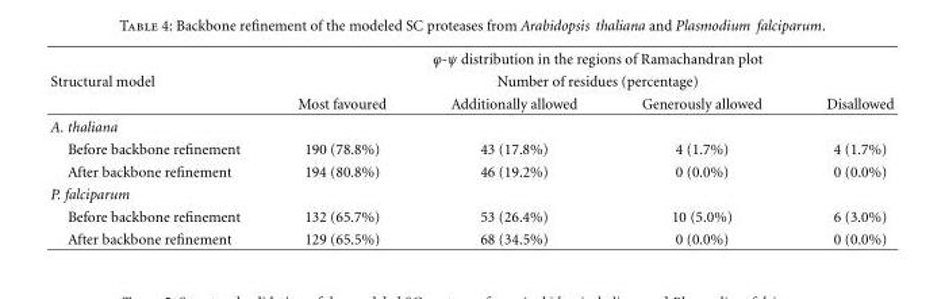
<table><thead><tr><td rowspan="3">Structural model</td><td rowspan="2" colspan="4">ϕ-ψ distribution in the regions of Ramachandran plot Number of residues (percentage)</td></tr><tr></tr><tr><td>Most favoured</td><td>Additionally allowed</td><td>Generously allowed</td><td>Disallowed</td></tr></thead><tbody><tr><td colspan="5">A. thaliana</td></tr><tr><td>Before backbone refinement</td><td>190 (78.8%)</td><td>43 (17.8%)</td><td>4 (1.7%)</td><td>4 (1.7%)</td></tr><tr><td>After backbone refinement</td><td>194 (80.8%)</td><td>46 (19.2%)</td><td>0 (0.0%)</td><td>0 (0.0%)</td></tr><tr><td colspan="5">P. falciparum</td></tr><tr><td>Before backbone refinement</td><td>132 (65.7%)</td><td>53 (26.4%)</td><td>10 (5.0%)</td><td>6 (3.0%)</td></tr><tr><td>After backbone refinement</td><td>129 (65.5%)</td><td>68 (34.5%)</td><td>0 (0.0%)</td><td>0 (0.0%)</td></tr></tbody></table>